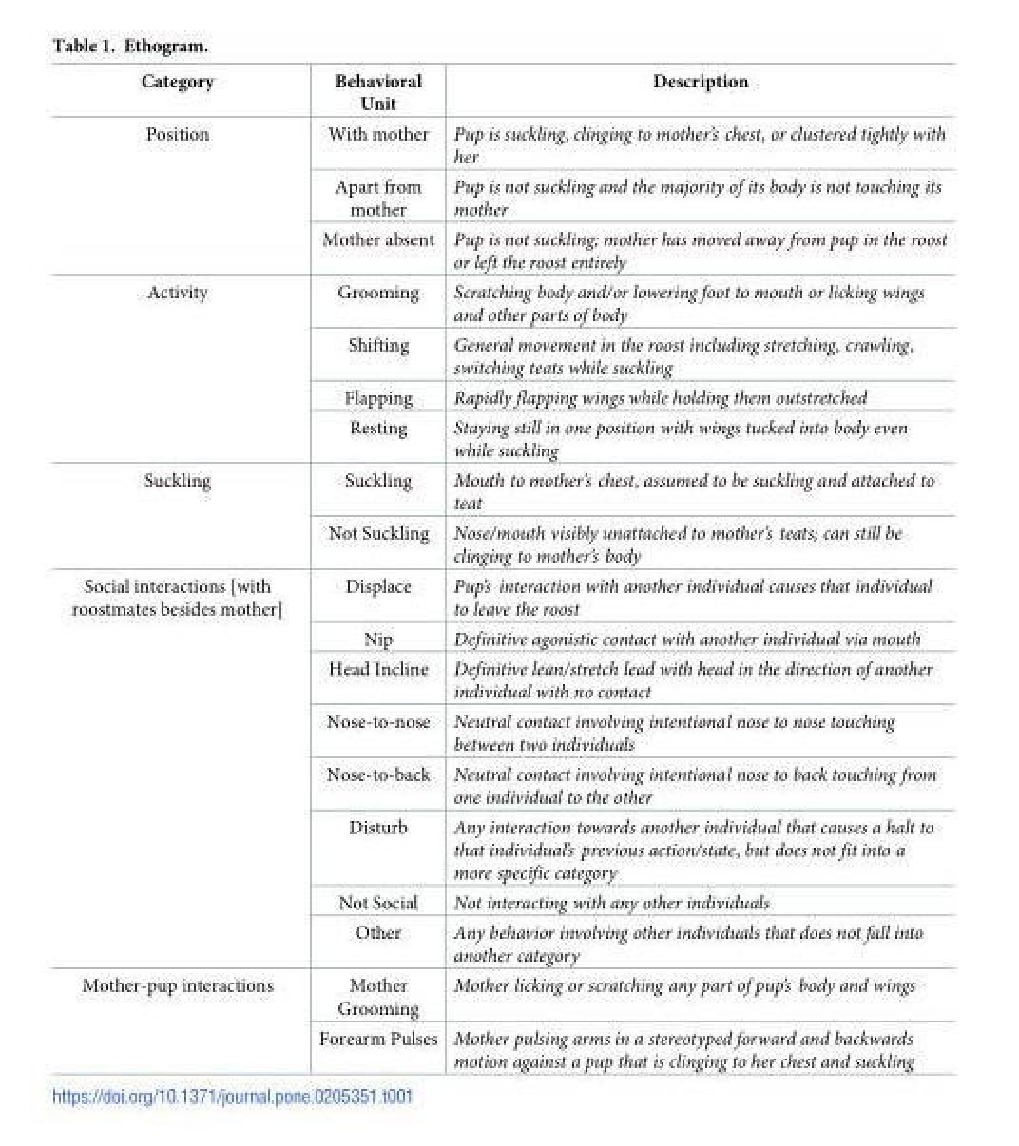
<table><thead><tr><td>Category</td><td>Behavioral Unit</td><td>Description</td></tr></thead><tbody><tr><td rowspan="3">Position</td><td>With mother</td><td>Pup is suckling, clinging to mother’s chest, or clustered tightly with her</td></tr><tr><td>Apart from mother</td><td>Pup is not suckling and the majority of its body is not touching its mother</td></tr><tr><td>Mother absent</td><td>Pup is not suckling; mother has moved away from pup in the roost or left the roost entirely</td></tr><tr><td rowspan="4">Activity</td><td>Grooming</td><td>Scratching body and/or lowering foot to mouth or licking wings and other parts of body</td></tr><tr><td>Shifting</td><td>General movement in the roost including stretching, crawling, switching teats while suckling</td></tr><tr><td>Flapping</td><td>Rapidly flapping wings while holding them outstretched</td></tr><tr><td>Resting</td><td>Staying still in one position with wings tucked into body even while suckling</td></tr><tr><td rowspan="2">Suckling</td><td>Suckling</td><td>Mouth to mother’s chest, assumed to be suckling and attached to teat</td></tr><tr><td>Not Suckling</td><td>Nose/mouth visibly unattached to mother’s teats; can still be clinging to mother’s body</td></tr><tr><td rowspan="8">Social interactions [with roostmates besides mother]</td><td>Displace</td><td>Pup’s interaction with another individual causes that individual to leave the roost</td></tr><tr><td>Nip</td><td>Definitive agonistic contact with another individual via mouth</td></tr><tr><td>Head Incline</td><td>Definitive lean/stretch lead with head in the direction of another individual with no contact</td></tr><tr><td>Nose-to-nose</td><td>Neutral contact involving intentional nose to nose touching between two individuals</td></tr><tr><td>Nose-to-back</td><td>Neutral contact involving intentional nose to back touching from one individual to the other</td></tr><tr><td>Disturb</td><td>Any interaction towards another individual that causes a halt to that individual’s previous action/state, but does not fit into a more specific category</td></tr><tr><td>Not Social</td><td>Not interacting with any other individuals</td></tr><tr><td>Other</td><td>Any behavior involving other individuals that does not fall into another category</td></tr><tr><td rowspan="2">Mother-pup interactions</td><td>Mother Grooming</td><td>Mother licking or scratching any part of pup’s body and wings</td></tr><tr><td>Forearm Pulses</td><td>Mother pulsing arms in a stereotyped forward and backwards motion against a pup that is clinging to her chest and suckling</td></tr></tbody></table>